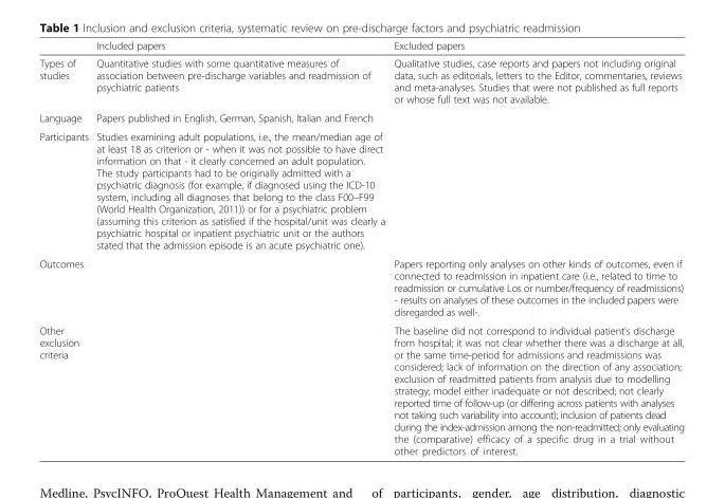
<table><thead><tr><td></td><td>Included papers</td><td>Excluded papers</td></tr></thead><tbody><tr><td>Types of studies</td><td>Quantitative studies with some quantitative measures of association between pre-discharge variables and readmission of psychiatric patients</td><td>Qualitative studies, case reports and papers not including original data, such as editorials, letters to the Editor, commentaries, reviews and meta-analyses. Studies that were not published as full reports or whose full text was not available.</td></tr><tr><td>Language</td><td>Papers published in English, German, Spanish, Italian and French</td><td></td></tr><tr><td>Participants</td><td>Studies examining adult populations, i.e., the mean/median age of at least 18 as criterion or - when it was not possible to have direct information on that - it clearly concerned an adult population. The study participants had to be originally admitted with a psychiatric diagnosis (for example, if diagnosed using the ICD-10 system, including all diagnoses that belong to the class F00–F99 (World Health Organization, 2011)) or for a psychiatric problem (assuming this criterion as satisfied if the hospital/unit was clearly a psychiatric hospital or inpatient psychiatric unit or the authors stated that the admission episode is an acute psychiatric one).</td><td></td></tr><tr><td>Outcomes</td><td></td><td>Papers reporting only analyses on other kinds of outcomes, even if connected to readmission in inpatient care (i.e., related to time to readmission or cumulative Los or number/frequency of readmissions) - results on analyses of these outcomes in the included papers were disregarded as well-.</td></tr><tr><td>Other exclusion criteria</td><td></td><td>The baseline did not correspond to individual patient’s discharge from hospital; it was not clear whether there was a discharge at all, or the same time-period for admissions and readmissions was considered; lack of information on the direction of any association; exclusion of readmitted patients from analysis due to modelling strategy; model either inadequate or not described; not clearly reported time of follow-up (or differing across patients with analyses not taking such variability into account); inclusion of patients dead during the index-admission among the non-readmitted; only evaluating the (comparative) efficacy of a specific drug in a trial without other predictors of interest.</td></tr></tbody></table>